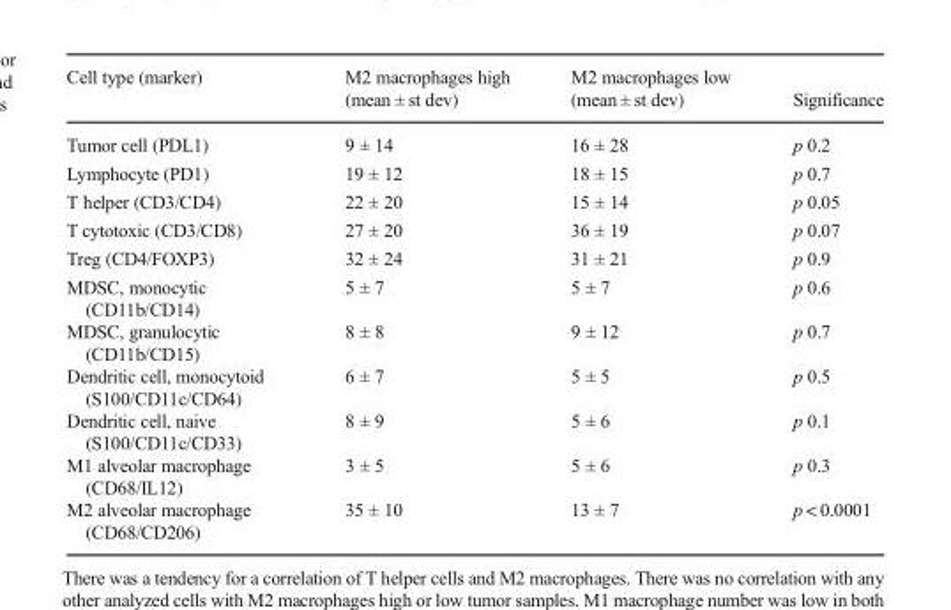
<table><thead><tr><td>Cell type (marker)</td><td>M2 macrophages high (mean ± st dev)</td><td>M2 macrophages low (mean ± st dev)</td><td>Significance</td></tr></thead><tbody><tr><td>Tumor cell (PDL1)</td><td>9 ± 14</td><td>16 ± 28</td><td>p 0.2</td></tr><tr><td>Lymphocyte (PD1)</td><td>19 ± 12</td><td>18 ± 15</td><td>p 0.7</td></tr><tr><td>T helper (CD3/CD4)</td><td>22 ± 20</td><td>15 ± 14</td><td>p 0.05</td></tr><tr><td>T cytotoxic (CD3/CD8)</td><td>27 ± 20</td><td>36 ± 19</td><td>p 0.07</td></tr><tr><td>Treg (CD4/FOXP3)</td><td>32 ± 24</td><td>31 ± 21</td><td>p 0.9</td></tr><tr><td>MDSC, monocytic (CD11b/CD14)</td><td>5 ± 7</td><td>5 ± 7</td><td>p 0.6</td></tr><tr><td>MDSC, granulocytic (CD11b/CD15)</td><td>8 ± 8</td><td>9 ± 12</td><td>p 0.7</td></tr><tr><td>Dendritic cell, monocytoid (S100/CD11c/CD64)</td><td>6 ± 7</td><td>5 ± 5</td><td>p 0.5</td></tr><tr><td>Dendritic cell, naive (S100/CD11c/CD33)</td><td>8 ± 9</td><td>5 ± 6</td><td>p 0.1</td></tr><tr><td>M1 alveolar macrophage (CD68/IL12)</td><td>3 ± 5</td><td>5 ± 6</td><td>p 0.3</td></tr><tr><td>M2 alveolar macrophage (CD68/CD206)</td><td>35 ± 10</td><td>13 ± 7</td><td>p &lt; 0.0001</td></tr></tbody></table>